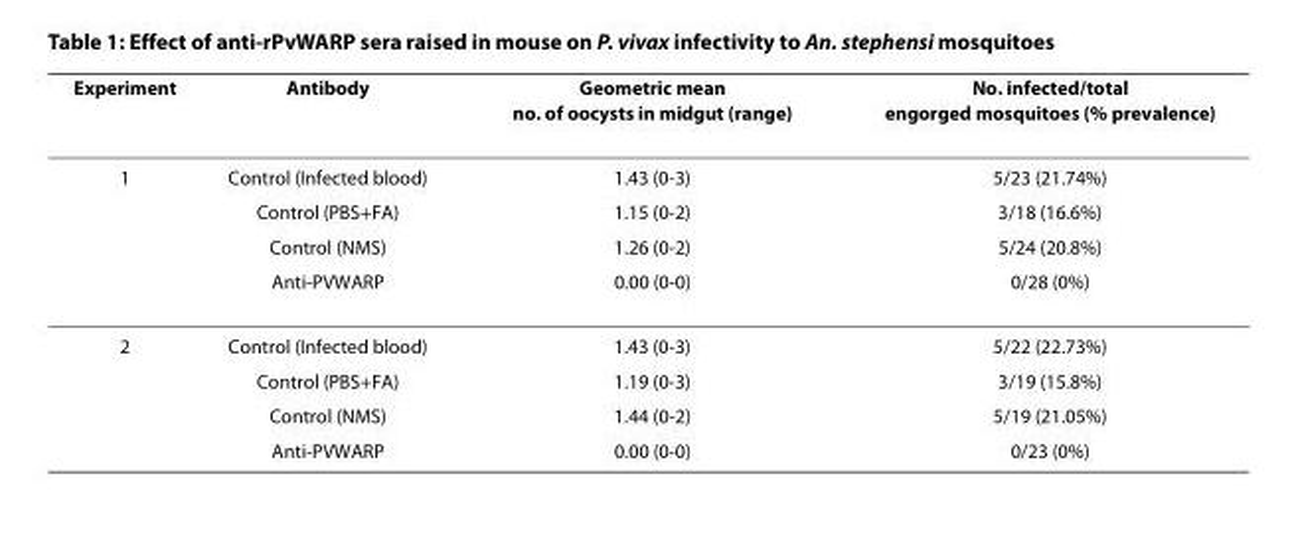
<table><thead><tr><td>Experiment</td><td>Antibody</td><td>Geometric mean no. of oocysts in midgut (range)</td><td>No. infected/total engorged mosquitoes (% prevalence)</td></tr></thead><tbody><tr><td rowspan="4">1</td><td>Control (Infected blood)</td><td>1.43 (0-3)</td><td>5/23 (21.74%)</td></tr><tr><td>Control (PBS+FA)</td><td>1.15 (0-2)</td><td>3/18 (16.6%)</td></tr><tr><td>Control (NMS)</td><td>1.26 (0-2)</td><td>5/24 (20.8%)</td></tr><tr><td>Anti-PVWARP</td><td>0.00 (0-0)</td><td>0/28 (0%)</td></tr><tr><td rowspan="4">2</td><td>Control (Infected blood)</td><td>1.43 (0-3)</td><td>5/22 (22.73%)</td></tr><tr><td>Control (PBS+FA)</td><td>1.19 (0-3)</td><td>3/19 (15.8%)</td></tr><tr><td>Control (NMS)</td><td>1.44 (0-2)</td><td>5/19 (21.05%)</td></tr><tr><td>Anti-PVWARP</td><td>0.00 (0-0)</td><td>0/23 (0%)</td></tr></tbody></table>